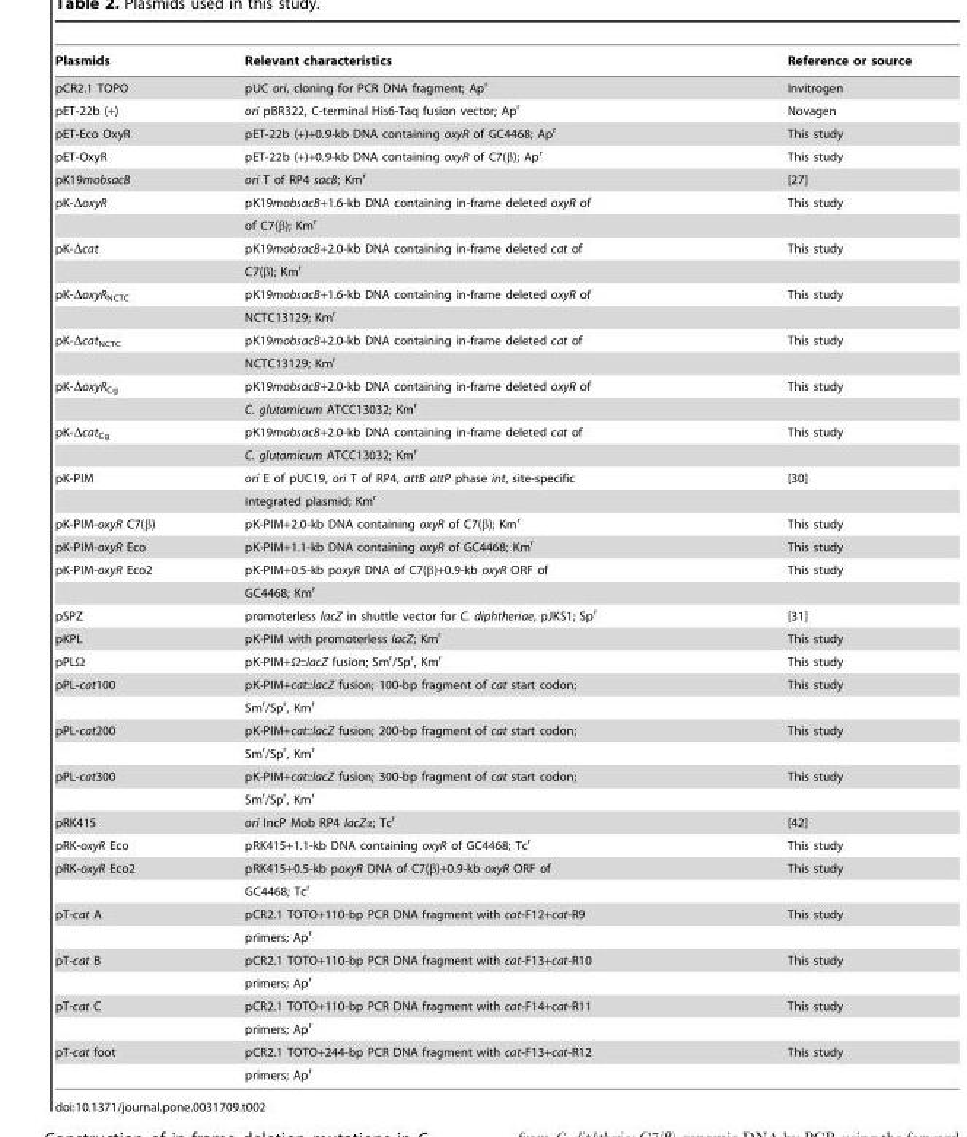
<table><thead><tr><td>Plasmids</td><td>Relevant characteristics</td><td>Reference or source</td></tr></thead><tbody><tr><td>pCR2.1 TOPO</td><td>pUC ori, cloning for PCR DNA fragment; Ap<sup>r</sup></td><td>Invitrogen</td></tr><tr><td>pET-22b (+)</td><td>ori pBR322, C-terminal His6-Taq fusion vector; Ap<sup>r</sup></td><td>Novagen</td></tr><tr><td>pET-Eco OxyR</td><td>pET-22b (+)+0.9-kb DNA containing oxyR of GC4468; Ap<sup>r</sup></td><td>This study</td></tr><tr><td>pET-OxyR</td><td>pET-22b (+)+0.9-kb DNA containing oxyR of C7(β); Ap<sup>r</sup></td><td>This study</td></tr><tr><td>pK19mobsacB</td><td>ori T of RP4 sacB; Km<sup>r</sup></td><td>[27]</td></tr><tr><td rowspan="2">pK-ΔoxyR</td><td>pK19mobsacB+1.6-kb DNA containing in-frame deleted oxyR of</td><td>This study</td></tr><tr><td>of C7(β); Km<sup>r</sup></td><td></td></tr><tr><td rowspan="2">pK-Δcat</td><td>pK19mobsacB+2.0-kb DNA containing in-frame deleted cat of</td><td>This study</td></tr><tr><td>C7(β); Km<sup>r</sup></td><td></td></tr><tr><td rowspan="2">pK-ΔoxyR<sub>NCTC</sub></td><td>pK19mobsacB+1.6-kb DNA containing in-frame deleted oxyR of</td><td>This study</td></tr><tr><td>NCTC13129; Km<sup>r</sup></td><td></td></tr><tr><td rowspan="2">pK-Δcat<sub>NCTC</sub></td><td>pK19mobsacB+2.0-kb DNA containing in-frame deleted cat of</td><td>This study</td></tr><tr><td>NCTC13129; Km<sup>r</sup></td><td></td></tr><tr><td rowspan="2">pK-ΔoxyR<sub>Cg</sub></td><td>pK19mobsacB+2.0-kb DNA containing in-frame deleted oxyR of</td><td>This study</td></tr><tr><td>C. glutamicum ATCC13032; Km<sup>r</sup></td><td></td></tr><tr><td rowspan="2">pK-Δcat<sub>Cg</sub></td><td>pK19mobsacB+2.0-kb DNA containing in-frame deleted cat of</td><td>This study</td></tr><tr><td>C. glutamicum ATCC13032; Km<sup>r</sup></td><td></td></tr><tr><td rowspan="2">pK-PIM</td><td>ori E of pUC19, ori T of RP4, attB attP phase int, site-specific</td><td>[30]</td></tr><tr><td>integrated plasmid; Km<sup>r</sup></td><td></td></tr><tr><td>pK-PIM-oxyR C7(β)</td><td>pK-PIM+2.0-kb DNA containing oxyR of C7(β); Km<sup>r</sup></td><td>This study</td></tr><tr><td>pK-PIM-oxyR Eco</td><td>pK-PIM+1.1-kb DNA containing oxyR of GC4468; Km<sup>r</sup></td><td>This study</td></tr><tr><td rowspan="2">pK-PIM-oxyR Eco2</td><td>pK-PIM+0.5-kb poxyR DNA of C7(β)+0.9-kb oxyR ORF of</td><td>This study</td></tr><tr><td>GC4468; Km<sup>r</sup></td><td></td></tr><tr><td>pSPZ</td><td>promoterless lacZ in shuttle vector for C. diphtheriae, pJKS1; Sp<sup>r</sup></td><td>[31]</td></tr><tr><td>pKPL</td><td>pK-PIM with promoterless lacZ; Km<sup>r</sup></td><td>This study</td></tr><tr><td>pPLΩ</td><td>pK-PIM+Ω::lacZ fusion; Sm<sup>r</sup>/Sp<sup>r</sup>, Km<sup>r</sup></td><td>This study</td></tr><tr><td rowspan="2">pPL-cat100</td><td>pK-PIM+cat::lacZ fusion; 100-bp fragment of cat start codon;</td><td>This study</td></tr><tr><td>Sm<sup>r</sup>/Sp<sup>r</sup>, Km<sup>r</sup></td><td></td></tr><tr><td rowspan="2">pPL-cat200</td><td>pK-PIM+cat::lacZ fusion; 200-bp fragment of cat start codon;</td><td>This study</td></tr><tr><td>Sm<sup>r</sup>/Sp<sup>r</sup>, Km<sup>r</sup></td><td></td></tr><tr><td rowspan="2">pPL-cat300</td><td>pK-PIM+cat::lacZ fusion; 300-bp fragment of cat start codon;</td><td>This study</td></tr><tr><td>Sm<sup>r</sup>/Sp<sup>r</sup>, Km<sup>r</sup></td><td></td></tr><tr><td>pRK415</td><td>ori IncP Mob RP4 lacZα; Tc<sup>r</sup></td><td>[42]</td></tr><tr><td>pRK-oxyR Eco</td><td>pRK415+1.1-kb DNA containing oxyR of GC4468; Tc<sup>r</sup></td><td>This study</td></tr><tr><td rowspan="2">pRK-oxyR Eco2</td><td>pRK415+0.5-kb poxyR DNA of C7(β)+0.9-kb oxyR ORF of</td><td>This study</td></tr><tr><td>GC4468; Tc<sup>r</sup></td><td></td></tr><tr><td rowspan="2">pT-cat A</td><td>pCR2.1 TOTO+110-bp PCR DNA fragment with cat-F12+cat-R9</td><td>This study</td></tr><tr><td>primers; Ap<sup>r</sup></td><td></td></tr><tr><td rowspan="2">pT-cat B</td><td>pCR2.1 TOTO+110-bp PCR DNA fragment with cat-F13+cat-R10</td><td>This study</td></tr><tr><td>primers; Ap<sup>r</sup></td><td></td></tr><tr><td rowspan="2">pT-cat C</td><td>pCR2.1 TOTO+110-bp PCR DNA fragment with cat-F14+cat-R11</td><td>This study</td></tr><tr><td>primers; Ap<sup>r</sup></td><td></td></tr><tr><td rowspan="2">pT-cat foot</td><td>pCR2.1 TOTO+244-bp PCR DNA fragment with cat-F13+cat-R12</td><td>This study</td></tr><tr><td>primers; Ap<sup>r</sup></td><td></td></tr></tbody></table>